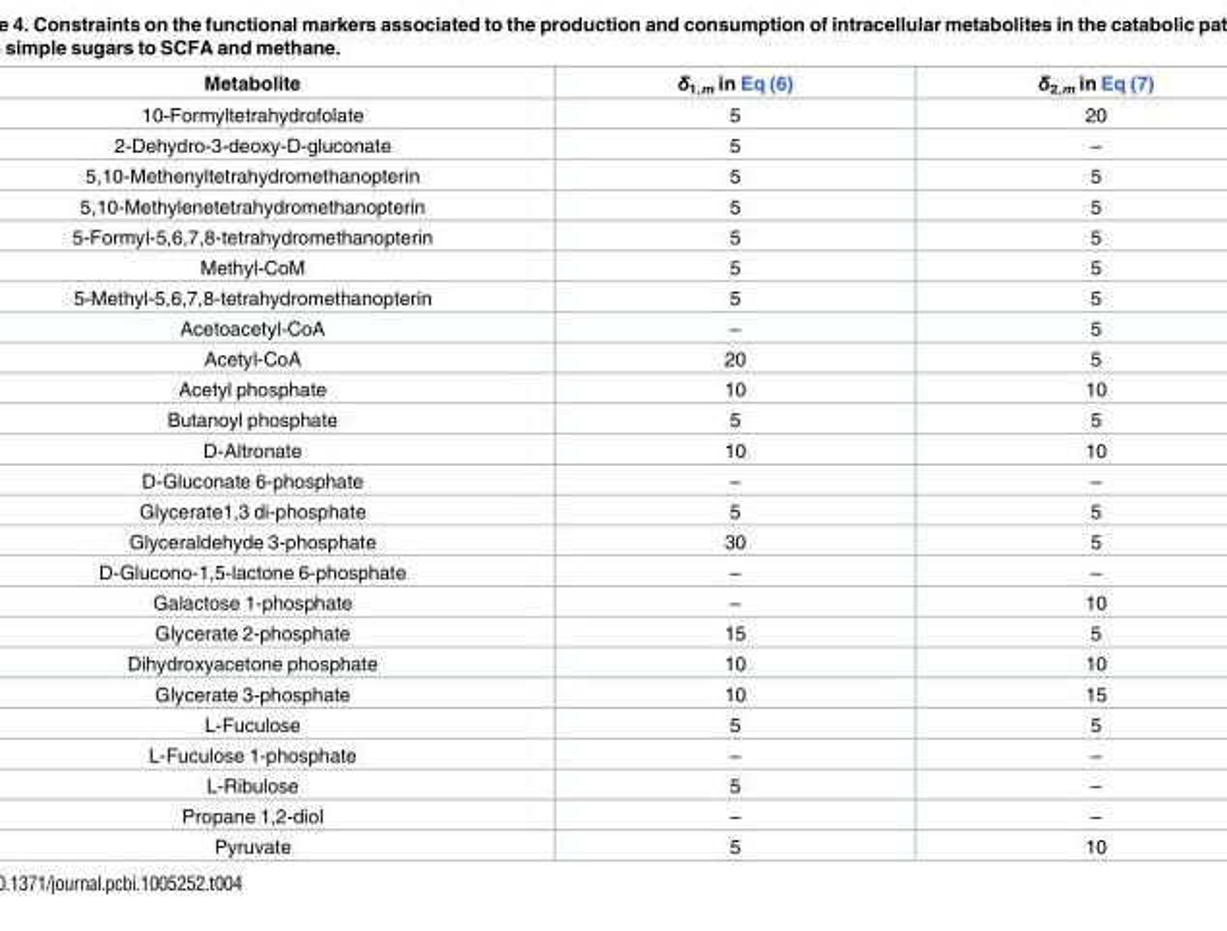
<table><thead><tr><td>Metabolite</td><td>δ<sub>1,m</sub> in Eq (6)</td><td>δ<sub>2,m</sub> in Eq (7)</td></tr></thead><tbody><tr><td>10-Formyltetrahydrofolate</td><td>5</td><td>20</td></tr><tr><td>2-Dehydro-3-deoxy-D-gluconate</td><td>5</td><td>–</td></tr><tr><td>5,10-Methenyltetrahydromethanopterin</td><td>5</td><td>5</td></tr><tr><td>5,10-Methylenetetrahydromethanopterin</td><td>5</td><td>5</td></tr><tr><td>5-Formyl-5,6,7,8-tetrahydromethanopterin</td><td>5</td><td>5</td></tr><tr><td>Methyl-CoM</td><td>5</td><td>5</td></tr><tr><td>5-Methyl-5,6,7,8-tetrahydromethanopterin</td><td>5</td><td>5</td></tr><tr><td>Acetoacetyl-CoA</td><td>–</td><td>5</td></tr><tr><td>Acetyl-CoA</td><td>20</td><td>5</td></tr><tr><td>Acetyl phosphate</td><td>10</td><td>10</td></tr><tr><td>Butanoyl phosphate</td><td>5</td><td>5</td></tr><tr><td>D-Altronate</td><td>10</td><td>10</td></tr><tr><td>D-Gluconate 6-phosphate</td><td>–</td><td>–</td></tr><tr><td>Glycerate1,3 di-phosphate</td><td>5</td><td>5</td></tr><tr><td>Glyceraldehyde 3-phosphate</td><td>30</td><td>5</td></tr><tr><td>D-Glucono-1,5-lactone 6-phosphate</td><td>–</td><td>–</td></tr><tr><td>Galactose 1-phosphate</td><td>–</td><td>10</td></tr><tr><td>Glycerate 2-phosphate</td><td>15</td><td>5</td></tr><tr><td>Dihydroxyacetone phosphate</td><td>10</td><td>10</td></tr><tr><td>Glycerate 3-phosphate</td><td>10</td><td>15</td></tr><tr><td>L-Fuculose</td><td>5</td><td>5</td></tr><tr><td>L-Fuculose 1-phosphate</td><td>–</td><td>–</td></tr><tr><td>L-Ribulose</td><td>5</td><td>–</td></tr><tr><td>Propane 1,2-diol</td><td>–</td><td>–</td></tr><tr><td>Pyruvate</td><td>5</td><td>10</td></tr></tbody></table>